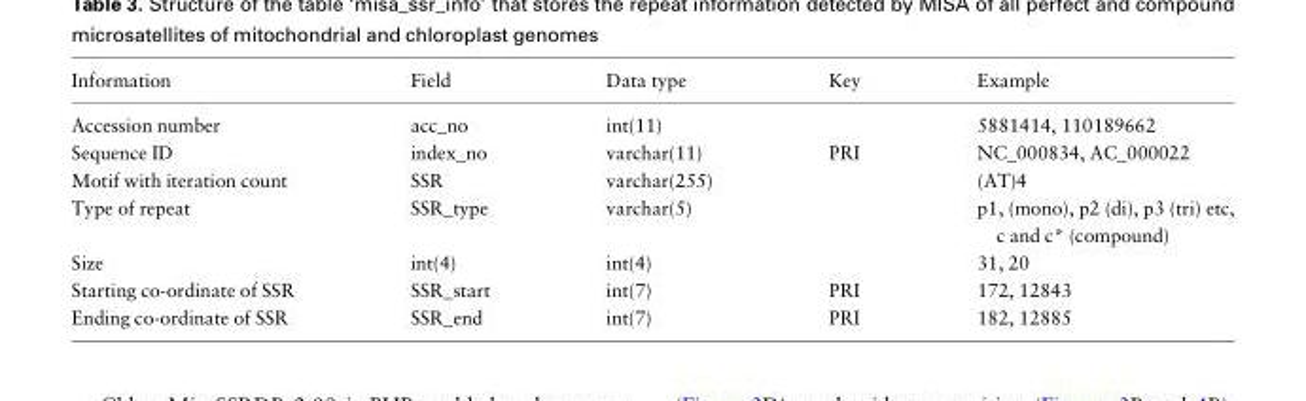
<table><thead><tr><td>Information</td><td>Field</td><td>Data type</td><td>Key</td><td>Example</td></tr></thead><tbody><tr><td>Accession number</td><td>acc_no</td><td>int(11)</td><td></td><td>5881414, 110189662</td></tr><tr><td>Sequence ID</td><td>index_no</td><td>varchar(11)</td><td>PRI</td><td>NC_000834, AC_000022</td></tr><tr><td>Motif with iteration count</td><td>SSR</td><td>varchar(255)</td><td></td><td>(AT)4</td></tr><tr><td>Type of repeat</td><td>SSR_type</td><td>varchar(5)</td><td></td><td>p1, (mono), p2 (di), p3 (tri) etc, c and c* (compound)</td></tr><tr><td>Size</td><td>int(4)</td><td>int(4)</td><td></td><td>31, 20</td></tr><tr><td>Starting co-ordinate of SSR</td><td>SSR_start</td><td>int(7)</td><td>PRI</td><td>172, 12843</td></tr><tr><td>Ending co-ordinate of SSR</td><td>SSR_end</td><td>int(7)</td><td>PRI</td><td>182, 12885</td></tr></tbody></table>